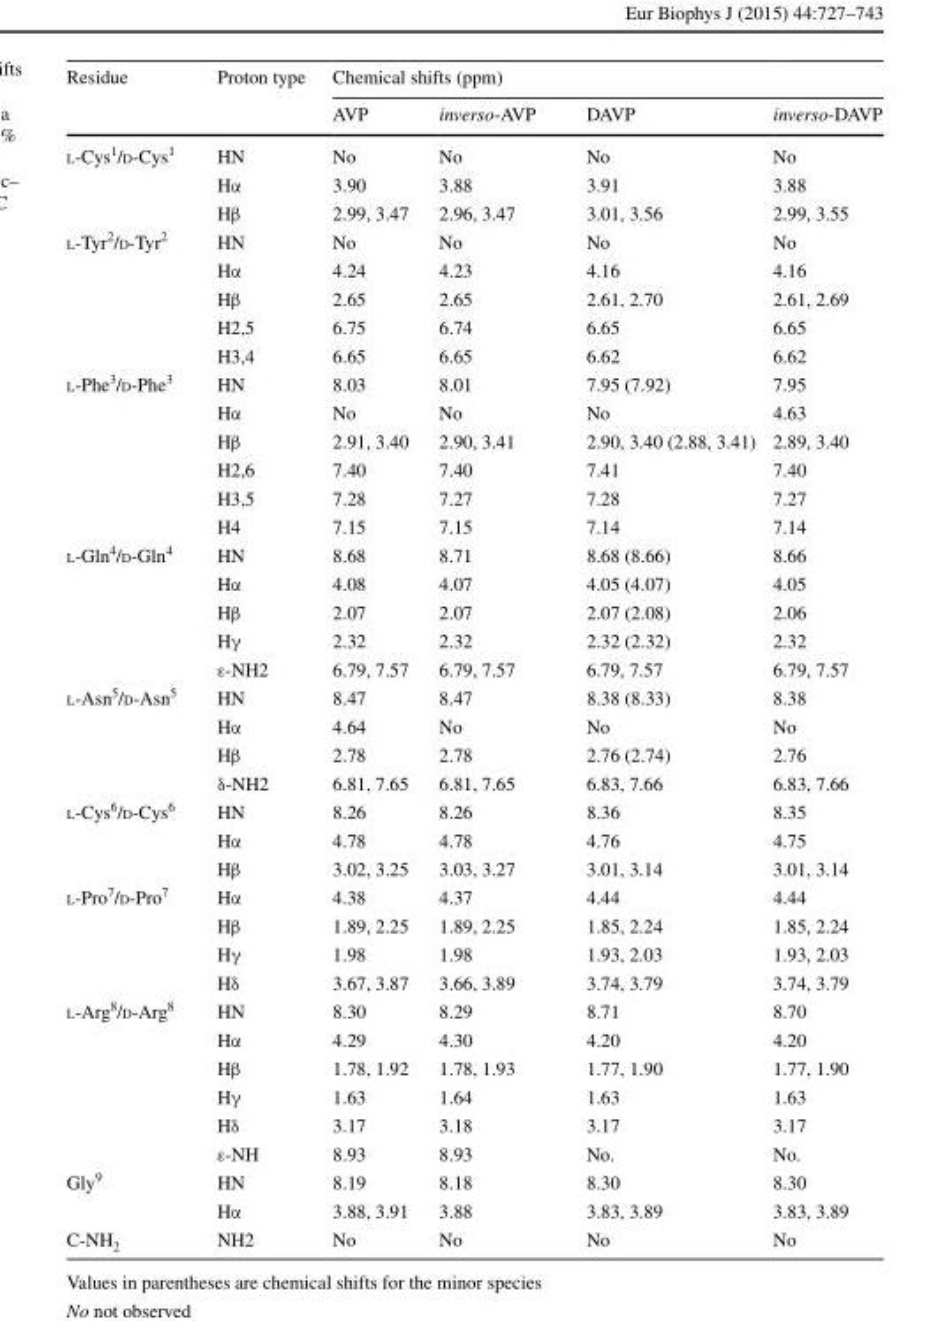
<table><thead><tr><td rowspan="2">Residue</td><td rowspan="2">Proton type</td><td colspan="4">Chemical shifts (ppm)</td></tr><tr><td>AVP</td><td>inverso-AVP</td><td>DAVP</td><td>inverso-DAVP</td></tr></thead><tbody><tr><td rowspan="3">l-Cys<sup>1</sup>/d-Cys<sup>1</sup></td><td>HN</td><td>No</td><td>No</td><td>No</td><td>No</td></tr><tr><td>Hα</td><td>3.90</td><td>3.88</td><td>3.91</td><td>3.88</td></tr><tr><td>Hβ</td><td>2.99, 3.47</td><td>2.96, 3.47</td><td>3.01, 3.56</td><td>2.99, 3.55</td></tr><tr><td rowspan="5">l-Tyr<sup>2</sup>/d-Tyr<sup>2</sup></td><td>HN</td><td>No</td><td>No</td><td>No</td><td>No</td></tr><tr><td>Hα</td><td>4.24</td><td>4.23</td><td>4.16</td><td>4.16</td></tr><tr><td>Hβ</td><td>2.65</td><td>2.65</td><td>2.61, 2.70</td><td>2.61, 2.69</td></tr><tr><td>H2,5</td><td>6.75</td><td>6.74</td><td>6.65</td><td>6.65</td></tr><tr><td>H3,4</td><td>6.65</td><td>6.65</td><td>6.62</td><td>6.62</td></tr><tr><td rowspan="6">l-Phe<sup>3</sup>/d-Phe<sup>3</sup></td><td>HN</td><td>8.03</td><td>8.01</td><td>7.95 (7.92)</td><td>7.95</td></tr><tr><td>Hα</td><td>No</td><td>No</td><td>No</td><td>4.63</td></tr><tr><td>Hβ</td><td>2.91, 3.40</td><td>2.90, 3.41</td><td>2.90, 3.40 (2.88, 3.41)</td><td>2.89, 3.40</td></tr><tr><td>H2,6</td><td>7.40</td><td>7.40</td><td>7.41</td><td>7.40</td></tr><tr><td>H3,5</td><td>7.28</td><td>7.27</td><td>7.28</td><td>7.27</td></tr><tr><td>H4</td><td>7.15</td><td>7.15</td><td>7.14</td><td>7.14</td></tr><tr><td rowspan="5">l-Gln<sup>4</sup>/d-Gln<sup>4</sup></td><td>HN</td><td>8.68</td><td>8.71</td><td>8.68 (8.66)</td><td>8.66</td></tr><tr><td>Hα</td><td>4.08</td><td>4.07</td><td>4.05 (4.07)</td><td>4.05</td></tr><tr><td>Hβ</td><td>2.07</td><td>2.07</td><td>2.07 (2.08)</td><td>2.06</td></tr><tr><td>Hγ</td><td>2.32</td><td>2.32</td><td>2.32 (2.32)</td><td>2.32</td></tr><tr><td>ε-NH2</td><td>6.79, 7.57</td><td>6.79, 7.57</td><td>6.79, 7.57</td><td>6.79, 7.57</td></tr><tr><td rowspan="4">l-Asn<sup>5</sup>/d-Asn<sup>5</sup></td><td>HN</td><td>8.47</td><td>8.47</td><td>8.38 (8.33)</td><td>8.38</td></tr><tr><td>Hα</td><td>4.64</td><td>No</td><td>No</td><td>No</td></tr><tr><td>Hβ</td><td>2.78</td><td>2.78</td><td>2.76 (2.74)</td><td>2.76</td></tr><tr><td>δ-NH2</td><td>6.81, 7.65</td><td>6.81, 7.65</td><td>6.83, 7.66</td><td>6.83, 7.66</td></tr><tr><td rowspan="3">l-Cys<sup>6</sup>/d-Cys<sup>6</sup></td><td>HN</td><td>8.26</td><td>8.26</td><td>8.36</td><td>8.35</td></tr><tr><td>Hα</td><td>4.78</td><td>4.78</td><td>4.76</td><td>4.75</td></tr><tr><td>Hβ</td><td>3.02, 3.25</td><td>3.03, 3.27</td><td>3.01, 3.14</td><td>3.01, 3.14</td></tr><tr><td rowspan="4">l-Pro<sup>7</sup>/d-Pro<sup>7</sup></td><td>Hα</td><td>4.38</td><td>4.37</td><td>4.44</td><td>4.44</td></tr><tr><td>Hβ</td><td>1.89, 2.25</td><td>1.89, 2.25</td><td>1.85, 2.24</td><td>1.85, 2.24</td></tr><tr><td>Hγ</td><td>1.98</td><td>1.98</td><td>1.93, 2.03</td><td>1.93, 2.03</td></tr><tr><td>Hδ</td><td>3.67, 3.87</td><td>3.66, 3.89</td><td>3.74, 3.79</td><td>3.74, 3.79</td></tr><tr><td rowspan="6">l-Arg<sup>8</sup>/d-Arg<sup>8</sup></td><td>HN</td><td>8.30</td><td>8.29</td><td>8.71</td><td>8.70</td></tr><tr><td>Hα</td><td>4.29</td><td>4.30</td><td>4.20</td><td>4.20</td></tr><tr><td>Hβ</td><td>1.78, 1.92</td><td>1.78, 1.93</td><td>1.77, 1.90</td><td>1.77, 1.90</td></tr><tr><td>Hγ</td><td>1.63</td><td>1.64</td><td>1.63</td><td>1.63</td></tr><tr><td>Hδ</td><td>3.17</td><td>3.18</td><td>3.17</td><td>3.17</td></tr><tr><td>ε-NH</td><td>8.93</td><td>8.93</td><td>No.</td><td>No.</td></tr><tr><td rowspan="2">Gly<sup>9</sup></td><td>HN</td><td>8.19</td><td>8.18</td><td>8.30</td><td>8.30</td></tr><tr><td>Hα</td><td>3.88, 3.91</td><td>3.88</td><td>3.83, 3.89</td><td>3.83, 3.89</td></tr><tr><td>C-NH<sub>2</sub></td><td>NH2</td><td>No</td><td>No</td><td>No</td><td>No</td></tr></tbody></table>